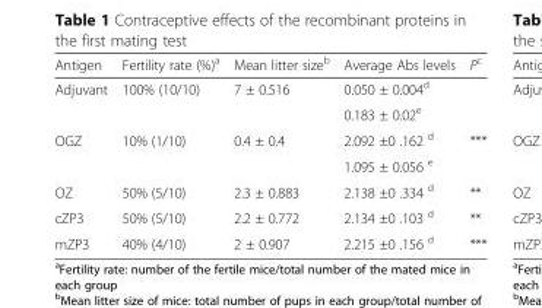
<table><thead><tr><td>Antigen</td><td>Fertility rate (%)<sup>a</sup></td><td>Mean litter size<sup>b</sup></td><td>Average Abs levels</td><td>P<sup>c</sup></td></tr></thead><tbody><tr><td rowspan="2">Adjuvant</td><td rowspan="2">100% (10/10)</td><td rowspan="2">7 ± 0.516</td><td>0.050 ± 0.004<sup>d</sup></td><td rowspan="2"></td></tr><tr><td>0.183 ± 0.02<sup>e</sup></td></tr><tr><td rowspan="2">OGZ</td><td rowspan="2">10% (1/10)</td><td rowspan="2">0.4 ± 0.4</td><td>2.092 ±0 .162 <sup>d</sup></td><td rowspan="2">***</td></tr><tr><td>1.095 ± 0.056 <sup>e</sup></td></tr><tr><td>OZ</td><td>50% (5/10)</td><td>2.3 ± 0.883</td><td>2.138 ±0 .334 <sup>d</sup></td><td>**</td></tr><tr><td>cZP3</td><td>50% (5/10)</td><td>2.2 ± 0.772</td><td>2.134 ±0 .103 <sup>d</sup></td><td>**</td></tr><tr><td>mZP3</td><td>40% (4/10)</td><td>2 ± 0.907</td><td>2.215 ±0 .156 <sup>d</sup></td><td>***</td></tr></tbody></table>